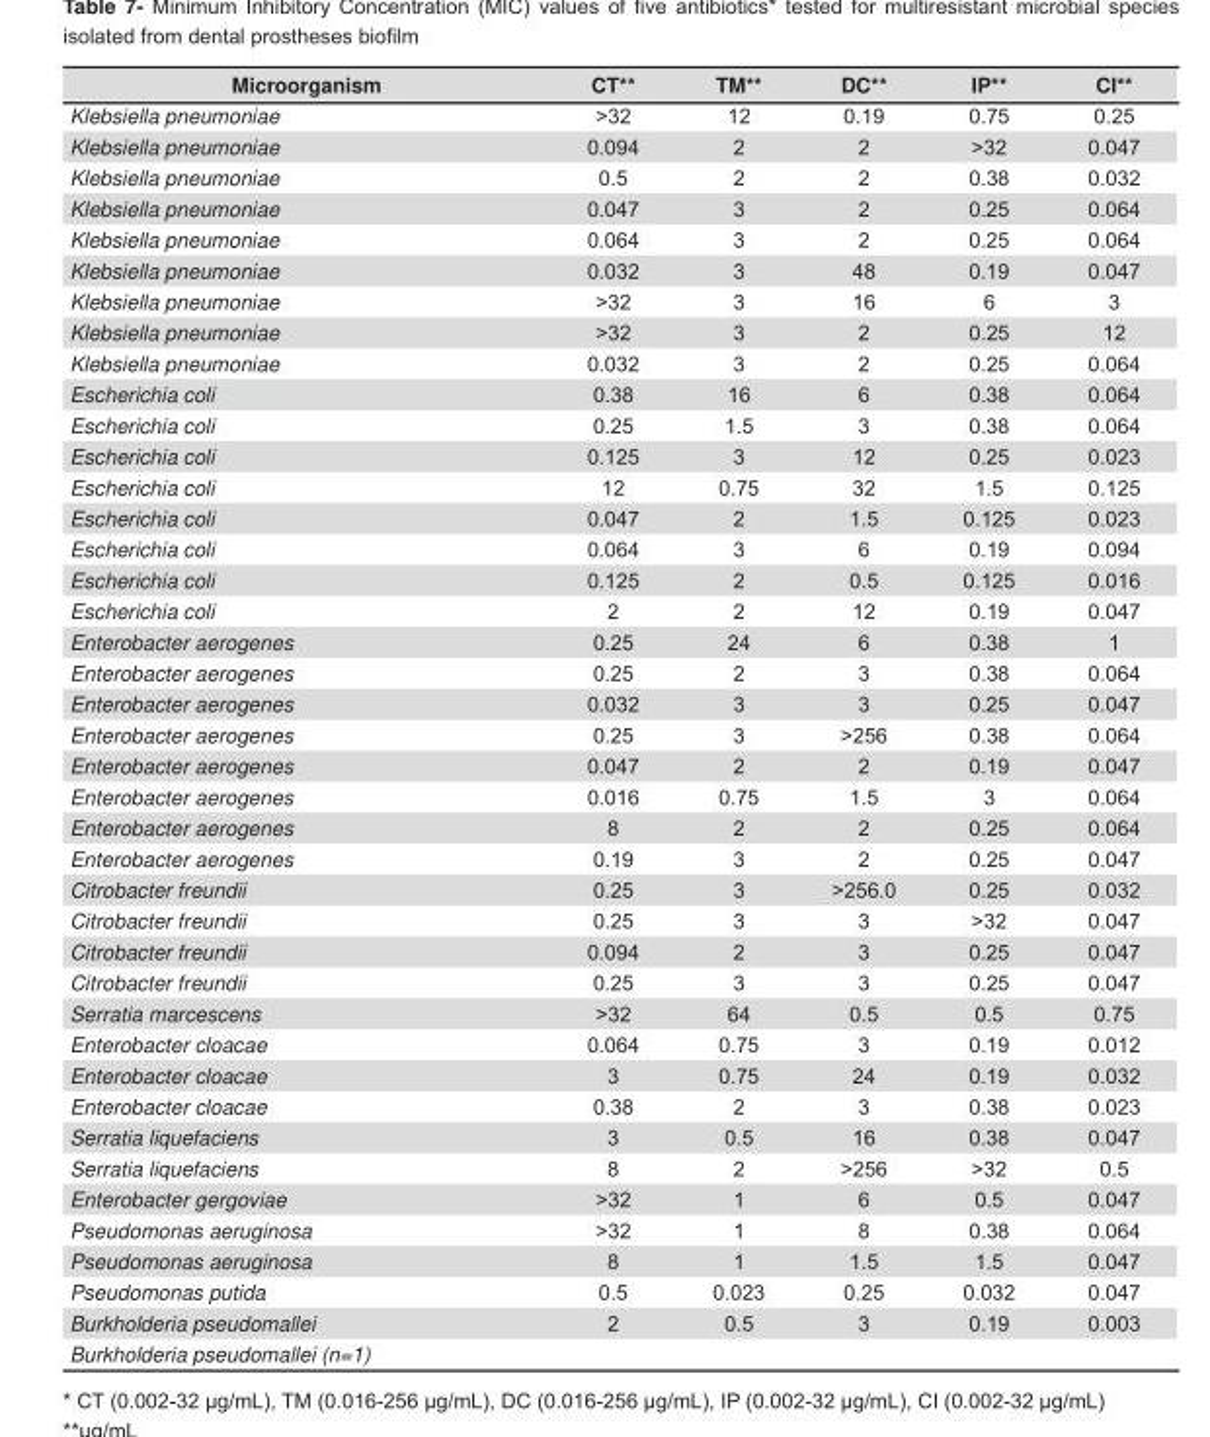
<table><thead><tr><td>Microorganism</td><td>CT**</td><td>TM**</td><td>DC**</td><td>IP**</td><td>CI**</td></tr></thead><tbody><tr><td>Klebsiella pneumoniae</td><td>&gt;32</td><td>12</td><td>0.19</td><td>0.75</td><td>0.25</td></tr><tr><td>Klebsiella pneumoniae</td><td>0.094</td><td>2</td><td>2</td><td>&gt;32</td><td>0.047</td></tr><tr><td>Klebsiella pneumoniae</td><td>0.5</td><td>2</td><td>2</td><td>0.38</td><td>0.032</td></tr><tr><td>Klebsiella pneumoniae</td><td>0.047</td><td>3</td><td>2</td><td>0.25</td><td>0.064</td></tr><tr><td>Klebsiella pneumoniae</td><td>0.064</td><td>3</td><td>2</td><td>0.25</td><td>0.064</td></tr><tr><td>Klebsiella pneumoniae</td><td>0.032</td><td>3</td><td>48</td><td>0.19</td><td>0.047</td></tr><tr><td>Klebsiella pneumoniae</td><td>&gt;32</td><td>3</td><td>16</td><td>6</td><td>3</td></tr><tr><td>Klebsiella pneumoniae</td><td>&gt;32</td><td>3</td><td>2</td><td>0.25</td><td>12</td></tr><tr><td>Klebsiella pneumoniae</td><td>0.032</td><td>3</td><td>2</td><td>0.25</td><td>0.064</td></tr><tr><td>Escherichia coli</td><td>0.38</td><td>16</td><td>6</td><td>0.38</td><td>0.064</td></tr><tr><td>Escherichia coli</td><td>0.25</td><td>1.5</td><td>3</td><td>0.38</td><td>0.064</td></tr><tr><td>Escherichia coli</td><td>0.125</td><td>3</td><td>12</td><td>0.25</td><td>0.023</td></tr><tr><td>Escherichia coli</td><td>12</td><td>0.75</td><td>32</td><td>1.5</td><td>0.125</td></tr><tr><td>Escherichia coli</td><td>0.047</td><td>2</td><td>1.5</td><td>0.125</td><td>0.023</td></tr><tr><td>Escherichia coli</td><td>0.064</td><td>3</td><td>6</td><td>0.19</td><td>0.094</td></tr><tr><td>Escherichia coli</td><td>0.125</td><td>2</td><td>0.5</td><td>0.125</td><td>0.016</td></tr><tr><td>Escherichia coli</td><td>2</td><td>2</td><td>12</td><td>0.19</td><td>0.047</td></tr><tr><td>Enterobacter aerogenes</td><td>0.25</td><td>24</td><td>6</td><td>0.38</td><td>1</td></tr><tr><td>Enterobacter aerogenes</td><td>0.25</td><td>2</td><td>3</td><td>0.38</td><td>0.064</td></tr><tr><td>Enterobacter aerogenes</td><td>0.032</td><td>3</td><td>3</td><td>0.25</td><td>0.047</td></tr><tr><td>Enterobacter aerogenes</td><td>0.25</td><td>3</td><td>&gt;256</td><td>0.38</td><td>0.064</td></tr><tr><td>Enterobacter aerogenes</td><td>0.047</td><td>2</td><td>2</td><td>0.19</td><td>0.047</td></tr><tr><td>Enterobacter aerogenes</td><td>0.016</td><td>0.75</td><td>1.5</td><td>3</td><td>0.064</td></tr><tr><td>Enterobacter aerogenes</td><td>8</td><td>2</td><td>2</td><td>0.25</td><td>0.064</td></tr><tr><td>Enterobacter aerogenes</td><td>0.19</td><td>3</td><td>2</td><td>0.25</td><td>0.047</td></tr><tr><td>Citrobacter freundii</td><td>0.25</td><td>3</td><td>&gt;256.0</td><td>0.25</td><td>0.032</td></tr><tr><td>Citrobacter freundii</td><td>0.25</td><td>3</td><td>3</td><td>&gt;32</td><td>0.047</td></tr><tr><td>Citrobacter freundii</td><td>0.094</td><td>2</td><td>3</td><td>0.25</td><td>0.047</td></tr><tr><td>Citrobacter freundii</td><td>0.25</td><td>3</td><td>3</td><td>0.25</td><td>0.047</td></tr><tr><td>Serratia marcescens</td><td>&gt;32</td><td>64</td><td>0.5</td><td>0.5</td><td>0.75</td></tr><tr><td>Enterobacter cloacae</td><td>0.064</td><td>0.75</td><td>3</td><td>0.19</td><td>0.012</td></tr><tr><td>Enterobacter cloacae</td><td>3</td><td>0.75</td><td>24</td><td>0.19</td><td>0.032</td></tr><tr><td>Enterobacter cloacae</td><td>0.38</td><td>2</td><td>3</td><td>0.38</td><td>0.023</td></tr><tr><td>Serratia liquefaciens</td><td>3</td><td>0.5</td><td>16</td><td>0.38</td><td>0.047</td></tr><tr><td>Serratia liquefaciens</td><td>8</td><td>2</td><td>&gt;256</td><td>&gt;32</td><td>0.5</td></tr><tr><td>Enterobacter gergoviae</td><td>&gt;32</td><td>1</td><td>6</td><td>0.5</td><td>0.047</td></tr><tr><td>Pseudomonas aeruginosa</td><td>&gt;32</td><td>1</td><td>8</td><td>0.38</td><td>0.064</td></tr><tr><td>Pseudomonas aeruginosa</td><td>8</td><td>1</td><td>1.5</td><td>1.5</td><td>0.047</td></tr><tr><td>Pseudomonas putida</td><td>0.5</td><td>0.023</td><td>0.25</td><td>0.032</td><td>0.047</td></tr><tr><td>Burkholderia pseudomallei</td><td>2</td><td>0.5</td><td>3</td><td>0.19</td><td>0.003</td></tr><tr><td colspan="6">Burkholderia pseudomallei (n=1)</td></tr></tbody></table>